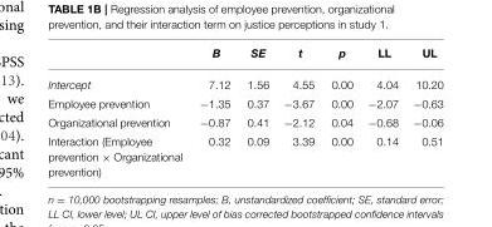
<table><thead><tr><td></td><td>B</td><td>SE</td><td>t</td><td>p</td><td>LL</td><td>UL</td></tr></thead><tbody><tr><td>Intercept</td><td>7.12</td><td>1.56</td><td>4.55</td><td>0.00</td><td>4.04</td><td>10.20</td></tr><tr><td>Employee prevention</td><td>−1.35</td><td>0.37</td><td>−3.67</td><td>0.00</td><td>−2.07</td><td>−0.63</td></tr><tr><td>Organizational prevention</td><td>−0.87</td><td>0.41</td><td>−2.12</td><td>0.04</td><td>−0.68</td><td>−0.06</td></tr><tr><td>Interaction (Employee prevention × Organizational prevention)</td><td>0.32</td><td>0.09</td><td>3.39</td><td>0.00</td><td>0.14</td><td>0.51</td></tr></tbody></table>